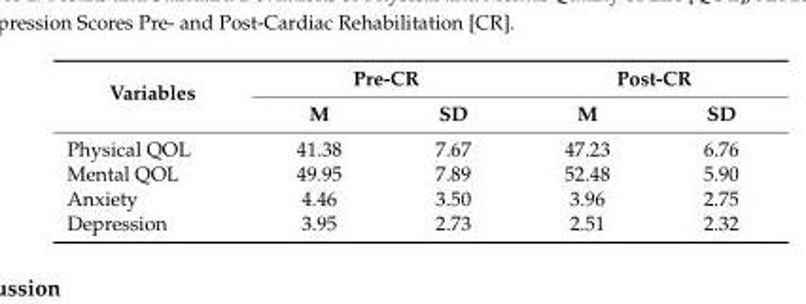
<table><thead><tr><td rowspan="2">Variables</td><td colspan="2">Pre-CR</td><td colspan="2">Post-CR</td></tr><tr><td>M</td><td>SD</td><td>M</td><td>SD</td></tr></thead><tbody><tr><td>Physical QOL</td><td>41.38</td><td>7.67</td><td>47.23</td><td>6.76</td></tr><tr><td>Mental QOL</td><td>49.95</td><td>7.89</td><td>52.48</td><td>5.90</td></tr><tr><td>Anxiety</td><td>4.46</td><td>3.50</td><td>3.96</td><td>2.75</td></tr><tr><td>Depression</td><td>3.95</td><td>2.73</td><td>2.51</td><td>2.32</td></tr></tbody></table>